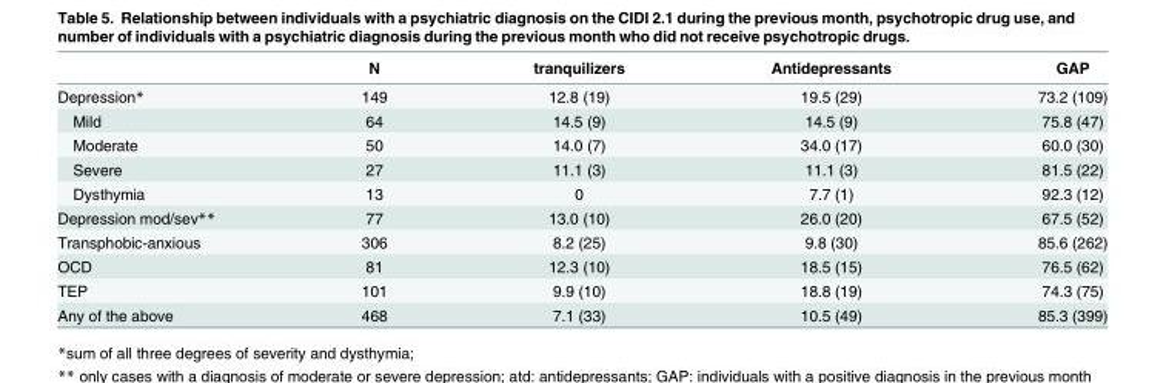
<table><thead><tr><td></td><td>N</td><td>tranquilizers</td><td>Antidepressants</td><td>GAP</td></tr></thead><tbody><tr><td>Depression*</td><td>149</td><td>12.8 (19)</td><td>19.5 (29)</td><td>73.2 (109)</td></tr><tr><td>Mild</td><td>64</td><td>14.5 (9)</td><td>14.5 (9)</td><td>75.8 (47)</td></tr><tr><td>Moderate</td><td>50</td><td>14.0 (7)</td><td>34.0 (17)</td><td>60.0 (30)</td></tr><tr><td>Severe</td><td>27</td><td>11.1 (3)</td><td>11.1 (3)</td><td>81.5 (22)</td></tr><tr><td>Dysthymia</td><td>13</td><td>0</td><td>7.7 (1)</td><td>92.3 (12)</td></tr><tr><td>Depression mod/sev**</td><td>77</td><td>13.0 (10)</td><td>26.0 (20)</td><td>67.5 (52)</td></tr><tr><td>Transphobic-anxious</td><td>306</td><td>8.2 (25)</td><td>9.8 (30)</td><td>85.6 (262)</td></tr><tr><td>OCD</td><td>81</td><td>12.3 (10)</td><td>18.5 (15)</td><td>76.5 (62)</td></tr><tr><td>TEP</td><td>101</td><td>9.9 (10)</td><td>18.8 (19)</td><td>74.3 (75)</td></tr><tr><td>Any of the above</td><td>468</td><td>7.1 (33)</td><td>10.5 (49)</td><td>85.3 (399)</td></tr></tbody></table>